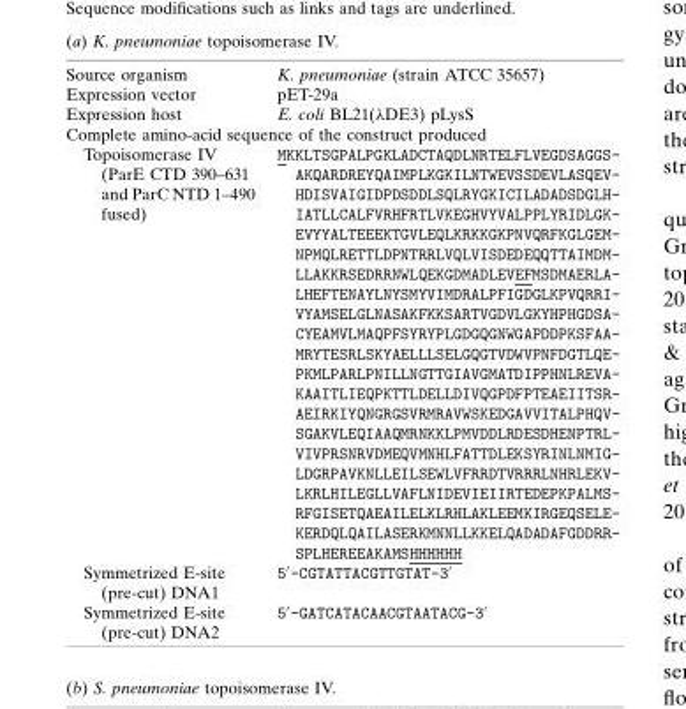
<table><tbody><tr><td>Source organism</td><td>K. pneumoniae (strain ATCC 35657)</td></tr><tr><td>Expression vector</td><td>pET-29a</td></tr><tr><td>Expression host</td><td>E. coli BL21(λDE3) pLysS</td></tr><tr><td colspan="2">Complete amino-acid sequence of the construct produced</td></tr><tr><td>Topoisomerase IV (ParE CTD 390–631 and ParC NTD 1–490 fused)</td><td>MKKLTSGPALPGKLADCTAQDLNRTELFLVEGDSAGGS- AKQARDREYQAIMPLKGKILNTWEVSSDEVLASQEV- HDISVAIGIDPDSDDLSQLRYGKICILADADSDGLH- IATLLCALFVRHFRTLVKEGHVYVALPPLYRIDLGK- EVYYALTEEEKTGVLEQLKRKKGKPNVQRFKGLGEM- NPMQLRETTLDPNTRRLVQLVISDEDEQQTTAIMDM- LLAKKRSEDRRNWLQEKGDMADLEVEFMSDMAERLA- LHEFTENAYLNYSMYVIMDRALPFIGDGLKPVQRRI- VYAMSELGLNASAKFKKSARTVGDVLGKYHPHGDSA- CYEAMVLMAQPFSYRYPLGDGQGNWGAPDDPKSFAA- MRYTESRLSKYAELLLSELGQGTVDWVPNFDGTLQE- PKMLPARLPNILLNGTTGIAVGMATDIPPHNLREVA- KAAITLIEQPKTTLDELLDIVQGPDFPTEAEIITSR- AEIRKIYQNGRGSVRMRAVWSKEDGAVVITALPHQV- SGAKVLEQIAAQMRNKKLPMVDDLRDESDHENPTRL- VIVPRSNRVDMEQVMNHLFATTDLEKSYRINLNMIG- LDGRPAVKNLLEILSEWLVFRRDTVRRRLNHRLEKV- LKRLHILEGLLVAFLNIDEVIEIIRTEDEPKPALMS- RFGISETQAEAILELKLRHLAKLEEMKIRGEQSELE- KERDQLQAILASERKMNNLLKKELQADADAFGDDRR- SPLHEREEAKAMSHHHHHH</td></tr><tr><td>Symmetrized E-site (pre-cut) DNA1</td><td>5′-CGTATTACGTTGTAT-3′</td></tr><tr><td>Symmetrized E-site (pre-cut) DNA2</td><td>5′-GATCATACAACGTAATACG-3′</td></tr></tbody></table>